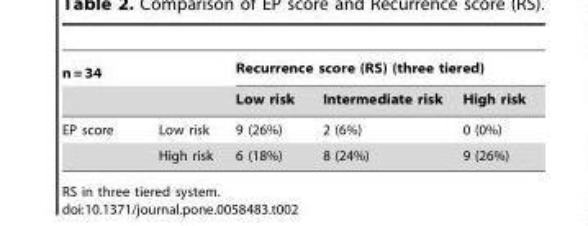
<table><thead><tr><td colspan="2">n = 34</td><td colspan="3">Recurrence score (RS) (three tiered)</td></tr><tr><td></td><td></td><td>Low risk</td><td>Intermediate risk</td><td>High risk</td></tr></thead><tbody><tr><td rowspan="2">EP score</td><td>Low risk</td><td>9 (26%)</td><td>2 (6%)</td><td>0 (0%)</td></tr><tr><td>High risk</td><td>6 (18%)</td><td>8 (24%)</td><td>9 (26%)</td></tr></tbody></table>